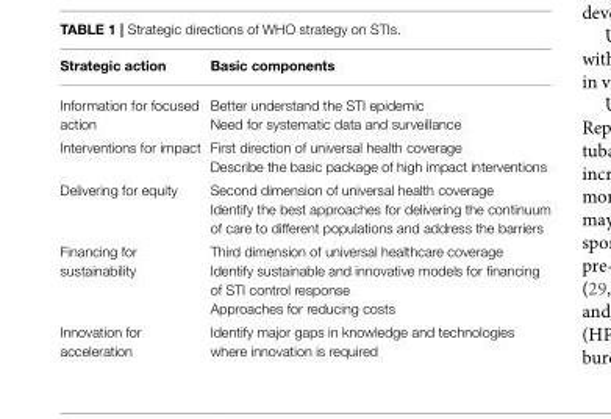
<table><thead><tr><td>Strategic action</td><td>Basic components</td></tr></thead><tbody><tr><td>Information for focused action</td><td>Better understand the STI epidemic Need for systematic data and surveillance</td></tr><tr><td>Interventions for impact</td><td>First direction of universal health coverage Describe the basic package of high impact interventions</td></tr><tr><td>Delivering for equity</td><td>Second dimension of universal health coverage Identify the best approaches for delivering the continuum of care to different populations and address the barriers</td></tr><tr><td>Financing for sustainability</td><td>Third dimension of universal healthcare coverage Identify sustainable and innovative models for financing of STI control response Approaches for reducing costs</td></tr><tr><td>Innovation for acceleration</td><td>Identify major gaps in knowledge and technologies where innovation is required</td></tr></tbody></table>